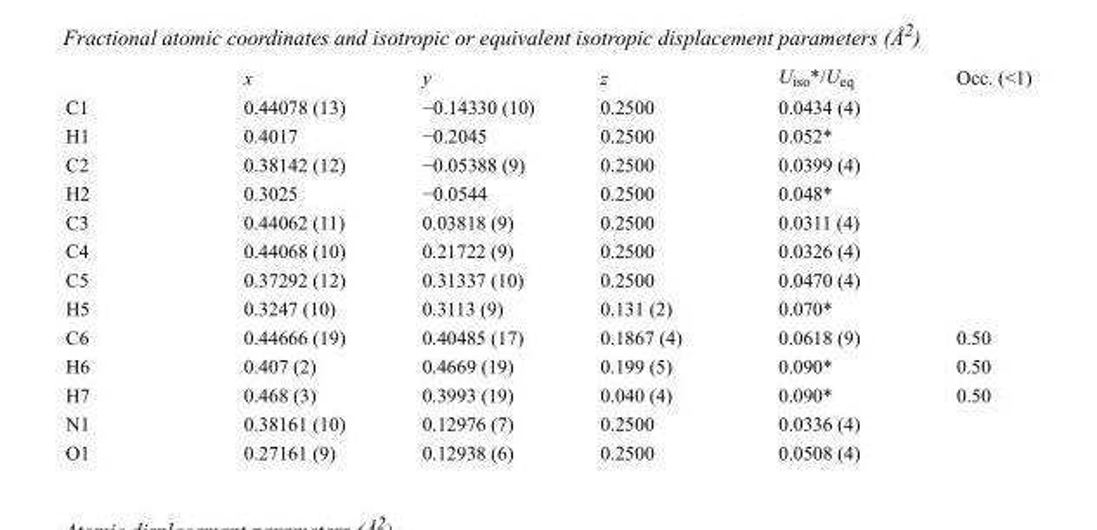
<table><thead><tr><td></td><td>x</td><td>y</td><td>z</td><td>U<sub>iso</sub>*/U<sub>eq</sub></td><td>Occ. (&lt;1)</td></tr></thead><tbody><tr><td>C1</td><td>0.44078 (13)</td><td>−0.14330 (10)</td><td>0.2500</td><td>0.0434 (4)</td><td></td></tr><tr><td>H1</td><td>0.4017</td><td>−0.2045</td><td>0.2500</td><td>0.052*</td><td></td></tr><tr><td>C2</td><td>0.38142 (12)</td><td>−0.05388 (9)</td><td>0.2500</td><td>0.0399 (4)</td><td></td></tr><tr><td>H2</td><td>0.3025</td><td>−0.0544</td><td>0.2500</td><td>0.048*</td><td></td></tr><tr><td>C3</td><td>0.44062 (11)</td><td>0.03818 (9)</td><td>0.2500</td><td>0.0311 (4)</td><td></td></tr><tr><td>C4</td><td>0.44068 (10)</td><td>0.21722 (9)</td><td>0.2500</td><td>0.0326 (4)</td><td></td></tr><tr><td>C5</td><td>0.37292 (12)</td><td>0.31337 (10)</td><td>0.2500</td><td>0.0470 (4)</td><td></td></tr><tr><td>H5</td><td>0.3247 (10)</td><td>0.3113 (9)</td><td>0.131 (2)</td><td>0.070*</td><td></td></tr><tr><td>C6</td><td>0.44666 (19)</td><td>0.40485 (17)</td><td>0.1867 (4)</td><td>0.0618 (9)</td><td>0.50</td></tr><tr><td>H6</td><td>0.407 (2)</td><td>0.4669 (19)</td><td>0.199 (5)</td><td>0.090*</td><td>0.50</td></tr><tr><td>H7</td><td>0.468 (3)</td><td>0.3993 (19)</td><td>0.040 (4)</td><td>0.090*</td><td>0.50</td></tr><tr><td>N1</td><td>0.38161 (10)</td><td>0.12976 (7)</td><td>0.2500</td><td>0.0336 (4)</td><td></td></tr><tr><td>O1</td><td>0.27161 (9)</td><td>0.12938 (6)</td><td>0.2500</td><td>0.0508 (4)</td><td></td></tr></tbody></table>